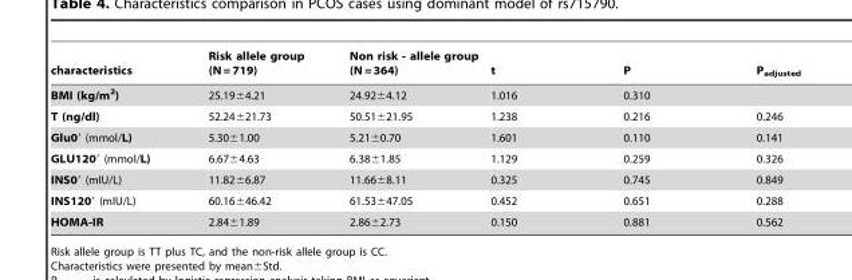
<table><thead><tr><td>characteristics</td><td>Risk allele group (N = 719)</td><td>Non risk - allele group (N = 364)</td><td>t</td><td>P</td><td>P<sub>adjusted</sub></td></tr></thead><tbody><tr><td>BMI (kg/m<sup>2</sup>)</td><td>25.19±4.21</td><td>24.92±4.12</td><td>1.016</td><td>0.310</td><td></td></tr><tr><td>T (ng/dl)</td><td>52.24±21.73</td><td>50.51±21.95</td><td>1.238</td><td>0.216</td><td>0.246</td></tr><tr><td>Glu0′ (mmol/L)</td><td>5.30±1.00</td><td>5.21±0.70</td><td>1.601</td><td>0.110</td><td>0.141</td></tr><tr><td>GLU120′ (mmol/L)</td><td>6.67±4.63</td><td>6.38±1.85</td><td>1.129</td><td>0.259</td><td>0.326</td></tr><tr><td>INS0′ (mIU/L)</td><td>11.82±6.87</td><td>11.66±8.11</td><td>0.325</td><td>0.745</td><td>0.849</td></tr><tr><td>INS120′ (mIU/L)</td><td>60.16±46.42</td><td>61.53±47.05</td><td>0.452</td><td>0.651</td><td>0.288</td></tr><tr><td>HOMA-IR</td><td>2.84±1.89</td><td>2.86±2.73</td><td>0.150</td><td>0.881</td><td>0.562</td></tr></tbody></table>